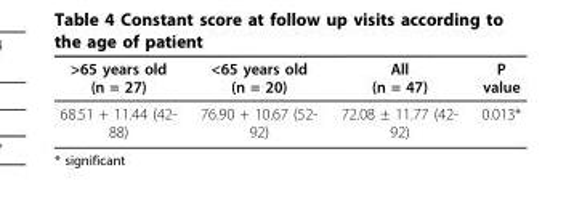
<table><thead><tr><td>&gt;65 years old (n = 27)</td><td>&lt;65 years old (n = 20)</td><td>All (n = 47)</td><td>P value</td></tr></thead><tbody><tr><td>68.51 + 11.44 (42- 88)</td><td>76.90 + 10.67 (52- 92)</td><td>72.08 ± 11.77 (42- 92)</td><td>0.013*</td></tr></tbody></table>